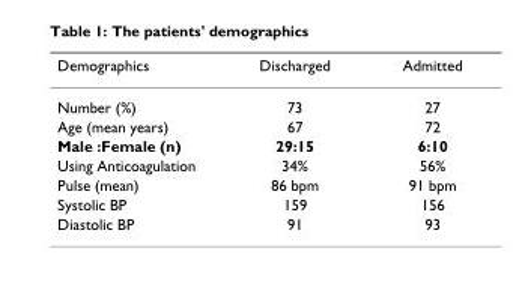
<table><thead><tr><td>Demographics</td><td>Discharged</td><td>Admitted</td></tr></thead><tbody><tr><td>Number (%)</td><td>73</td><td>27</td></tr><tr><td>Age (mean years)</td><td>67</td><td>72</td></tr><tr><td>Male :Female (n)</td><td>29:15</td><td>6:10</td></tr><tr><td>Using Anticoagulation</td><td>34%</td><td>56%</td></tr><tr><td>Pulse (mean)</td><td>86 bpm</td><td>91 bpm</td></tr><tr><td>Systolic BP</td><td>159</td><td>156</td></tr><tr><td>Diastolic BP</td><td>91</td><td>93</td></tr></tbody></table>